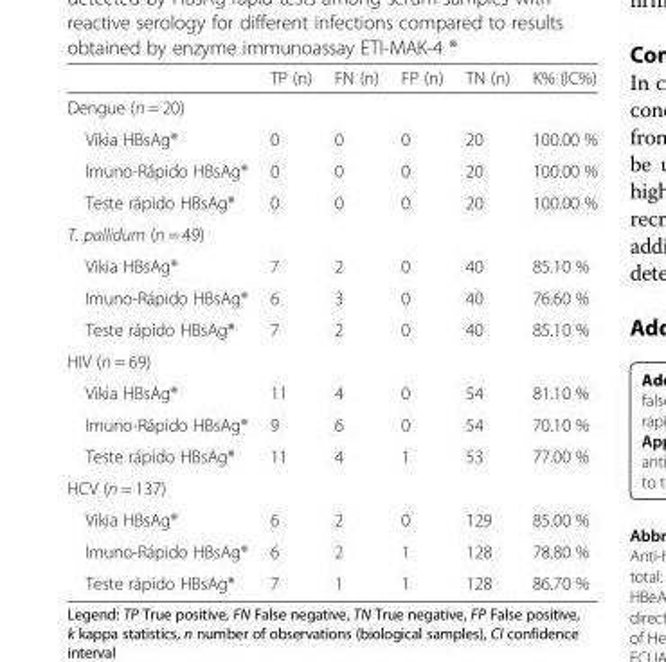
<table><thead><tr><td></td><td>TP (n)</td><td>FN (n)</td><td>FP (n)</td><td>TN (n)</td><td>K% (IC%)</td></tr></thead><tbody><tr><td colspan="6">Dengue (n = 20)</td></tr><tr><td>Vikia HBsAg®</td><td>0</td><td>0</td><td>0</td><td>20</td><td>100.00 %</td></tr><tr><td>Imuno-Rápido HBsAg®</td><td>0</td><td>0</td><td>0</td><td>20</td><td>100.00 %</td></tr><tr><td>Teste rápido HBsAg®</td><td>0</td><td>0</td><td>0</td><td>20</td><td>100.00 %</td></tr><tr><td colspan="6">T. pallidum (n = 49)</td></tr><tr><td>Vikia HBsAg®</td><td>7</td><td>2</td><td>0</td><td>40</td><td>85.10 %</td></tr><tr><td>Imuno-Rápido HBsAg®</td><td>6</td><td>3</td><td>0</td><td>40</td><td>76.60 %</td></tr><tr><td>Teste rápido HBsAg®</td><td>7</td><td>2</td><td>0</td><td>40</td><td>85.10 %</td></tr><tr><td colspan="6">HIV (n = 69)</td></tr><tr><td>Vikia HBsAg®</td><td>11</td><td>4</td><td>0</td><td>54</td><td>81.10 %</td></tr><tr><td>Imuno-Rápido HBsAg®</td><td>9</td><td>6</td><td>0</td><td>54</td><td>70.10 %</td></tr><tr><td>Teste rápido HBsAg®</td><td>11</td><td>4</td><td>1</td><td>53</td><td>77.00 %</td></tr><tr><td colspan="6">HCV (n = 137)</td></tr><tr><td>Vikia HBsAg®</td><td>6</td><td>2</td><td>0</td><td>129</td><td>85.00 %</td></tr><tr><td>Imuno-Rápido HBsAg®</td><td>6</td><td>2</td><td>1</td><td>128</td><td>78.80 %</td></tr><tr><td>Teste rápido HBsAg®</td><td>7</td><td>1</td><td>1</td><td>128</td><td>86.70 %</td></tr></tbody></table>